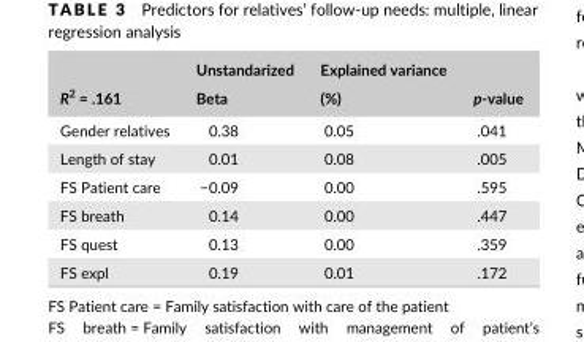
<table><thead><tr><td rowspan="2">R<sup>2</sup> = .161</td><td rowspan="2">Unstandarized Beta</td><td rowspan="2">Explained variance (%)</td><td rowspan="2">p- value</td></tr><tr></tr></thead><tbody><tr><td>Gender relatives</td><td>0.38</td><td>0.05</td><td>.041</td></tr><tr><td>Length of stay</td><td>0.01</td><td>0.08</td><td>.005</td></tr><tr><td>FS Patient care</td><td>−0.09</td><td>0.00</td><td>.595</td></tr><tr><td>FS breath</td><td>0.14</td><td>0.00</td><td>.447</td></tr><tr><td>FS quest</td><td>0.13</td><td>0.00</td><td>.359</td></tr><tr><td>FS expl</td><td>0.19</td><td>0.01</td><td>.172</td></tr></tbody></table>